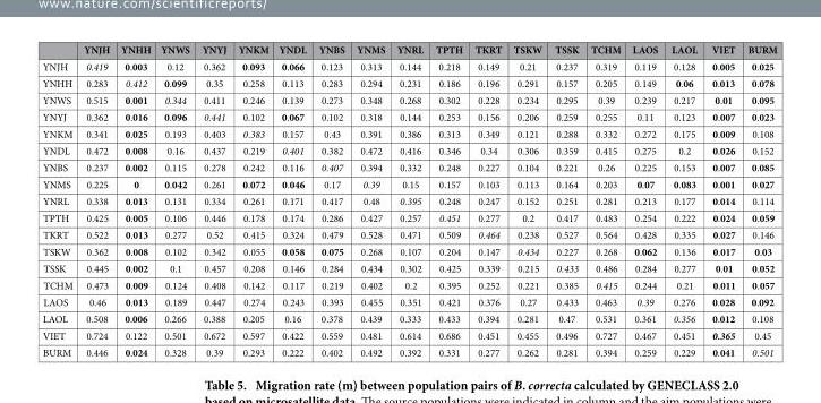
<table><thead><tr><td></td><td>YNJH</td><td>YNHH</td><td>YNWS</td><td>YNYJ</td><td>YNKM</td><td>YNDL</td><td>YNBS</td><td>YNMS</td><td>YNRL</td><td>TPTH</td><td>TKRT</td><td>TSKW</td><td>TSSK</td><td>TCHM</td><td>LAOS</td><td>LAOL</td><td>VIET</td><td>BURM</td></tr></thead><tbody><tr><td>YNJH</td><td>0.419</td><td>0.003</td><td>0.12</td><td>0.362</td><td>0.093</td><td>0.066</td><td>0.123</td><td>0.313</td><td>0.144</td><td>0.218</td><td>0.149</td><td>0.21</td><td>0.237</td><td>0.319</td><td>0.119</td><td>0.128</td><td>0.005</td><td>0.025</td></tr><tr><td>YNHH</td><td>0.283</td><td>0.412</td><td>0.099</td><td>0.35</td><td>0.258</td><td>0.113</td><td>0.283</td><td>0.294</td><td>0.231</td><td>0.186</td><td>0.196</td><td>0.291</td><td>0.157</td><td>0.205</td><td>0.149</td><td>0.06</td><td>0.013</td><td>0.078</td></tr><tr><td>YNWS</td><td>0.515</td><td>0.001</td><td>0.344</td><td>0.411</td><td>0.246</td><td>0.139</td><td>0.273</td><td>0.348</td><td>0.268</td><td>0.302</td><td>0.228</td><td>0.234</td><td>0.295</td><td>0.39</td><td>0.239</td><td>0.217</td><td>0.01</td><td>0.095</td></tr><tr><td>YNYJ</td><td>0.362</td><td>0.016</td><td>0.096</td><td>0.441</td><td>0.102</td><td>0.067</td><td>0.102</td><td>0.318</td><td>0.144</td><td>0.253</td><td>0.156</td><td>0.206</td><td>0.259</td><td>0.255</td><td>0.11</td><td>0.123</td><td>0.007</td><td>0.023</td></tr><tr><td>YNKM</td><td>0.341</td><td>0.025</td><td>0.193</td><td>0.403</td><td>0.383</td><td>0.157</td><td>0.43</td><td>0.391</td><td>0.386</td><td>0.313</td><td>0.349</td><td>0.121</td><td>0.288</td><td>0.332</td><td>0.272</td><td>0.175</td><td>0.009</td><td>0.108</td></tr><tr><td>YNDL</td><td>0.472</td><td>0.008</td><td>0.16</td><td>0.437</td><td>0.219</td><td>0.401</td><td>0.382</td><td>0.472</td><td>0.416</td><td>0.346</td><td>0.34</td><td>0.306</td><td>0.359</td><td>0.415</td><td>0.275</td><td>0.2</td><td>0.026</td><td>0.152</td></tr><tr><td>YNBS</td><td>0.237</td><td>0.002</td><td>0.115</td><td>0.278</td><td>0.242</td><td>0.116</td><td>0.407</td><td>0.394</td><td>0.332</td><td>0.248</td><td>0.227</td><td>0.104</td><td>0.221</td><td>0.26</td><td>0.225</td><td>0.153</td><td>0.007</td><td>0.085</td></tr><tr><td>YNMS</td><td>0.225</td><td>0</td><td>0.042</td><td>0.261</td><td>0.072</td><td>0.046</td><td>0.17</td><td>0.39</td><td>0.15</td><td>0.157</td><td>0.103</td><td>0.113</td><td>0.164</td><td>0.203</td><td>0.07</td><td>0.083</td><td>0.001</td><td>0.027</td></tr><tr><td>YNRL</td><td>0.338</td><td>0.013</td><td>0.131</td><td>0.334</td><td>0.261</td><td>0.171</td><td>0.417</td><td>0.48</td><td>0.395</td><td>0.248</td><td>0.247</td><td>0.152</td><td>0.251</td><td>0.281</td><td>0.213</td><td>0.177</td><td>0.014</td><td>0.114</td></tr><tr><td>TPTH</td><td>0.425</td><td>0.005</td><td>0.106</td><td>0.446</td><td>0.178</td><td>0.174</td><td>0.286</td><td>0.427</td><td>0.257</td><td>0.451</td><td>0.277</td><td>0.2</td><td>0.417</td><td>0.483</td><td>0.254</td><td>0.222</td><td>0.024</td><td>0.059</td></tr><tr><td>TKRT</td><td>0.522</td><td>0.013</td><td>0.277</td><td>0.52</td><td>0.415</td><td>0.324</td><td>0.479</td><td>0.528</td><td>0.471</td><td>0.509</td><td>0.464</td><td>0.238</td><td>0.527</td><td>0.564</td><td>0.428</td><td>0.335</td><td>0.027</td><td>0.146</td></tr><tr><td>TSKW</td><td>0.362</td><td>0.008</td><td>0.102</td><td>0.342</td><td>0.055</td><td>0.058</td><td>0.075</td><td>0.268</td><td>0.107</td><td>0.204</td><td>0.147</td><td>0.434</td><td>0.227</td><td>0.268</td><td>0.062</td><td>0.136</td><td>0.017</td><td>0.03</td></tr><tr><td>TSSK</td><td>0.445</td><td>0.002</td><td>0.1</td><td>0.457</td><td>0.208</td><td>0.146</td><td>0.284</td><td>0.434</td><td>0.302</td><td>0.425</td><td>0.339</td><td>0.215</td><td>0.433</td><td>0.486</td><td>0.284</td><td>0.277</td><td>0.01</td><td>0.052</td></tr><tr><td>TCHM</td><td>0.473</td><td>0.009</td><td>0.124</td><td>0.408</td><td>0.142</td><td>0.117</td><td>0.219</td><td>0.402</td><td>0.2</td><td>0.395</td><td>0.252</td><td>0.221</td><td>0.385</td><td>0.415</td><td>0.244</td><td>0.21</td><td>0.011</td><td>0.057</td></tr><tr><td>LAOS</td><td>0.46</td><td>0.013</td><td>0.189</td><td>0.447</td><td>0.274</td><td>0.243</td><td>0.393</td><td>0.455</td><td>0.351</td><td>0.421</td><td>0.376</td><td>0.27</td><td>0.433</td><td>0.463</td><td>0.39</td><td>0.276</td><td>0.028</td><td>0.092</td></tr><tr><td>LAOL</td><td>0.508</td><td>0.006</td><td>0.266</td><td>0.388</td><td>0.205</td><td>0.16</td><td>0.378</td><td>0.439</td><td>0.333</td><td>0.433</td><td>0.394</td><td>0.281</td><td>0.47</td><td>0.531</td><td>0.361</td><td>0.356</td><td>0.012</td><td>0.108</td></tr><tr><td>VIET</td><td>0.724</td><td>0.122</td><td>0.501</td><td>0.672</td><td>0.597</td><td>0.422</td><td>0.559</td><td>0.481</td><td>0.614</td><td>0.686</td><td>0.451</td><td>0.455</td><td>0.496</td><td>0.727</td><td>0.467</td><td>0.451</td><td>0.365</td><td>0.45</td></tr><tr><td>BURM</td><td>0.446</td><td>0.024</td><td>0.328</td><td>0.39</td><td>0.293</td><td>0.222</td><td>0.402</td><td>0.492</td><td>0.392</td><td>0.331</td><td>0.277</td><td>0.262</td><td>0.281</td><td>0.394</td><td>0.259</td><td>0.229</td><td>0.041</td><td>0.501</td></tr></tbody></table>